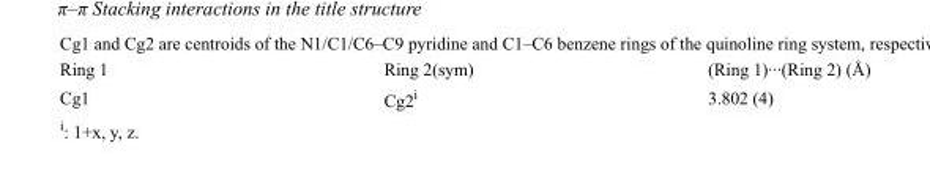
<table><tbody><tr><td>Ring 1</td><td>Ring 2(sym)</td><td>(Ring 1)···(Ring 2) (Å)</td></tr><tr><td>Cg1</td><td>Cg2<sup>i</sup></td><td>3.802 (4)</td></tr></tbody></table>